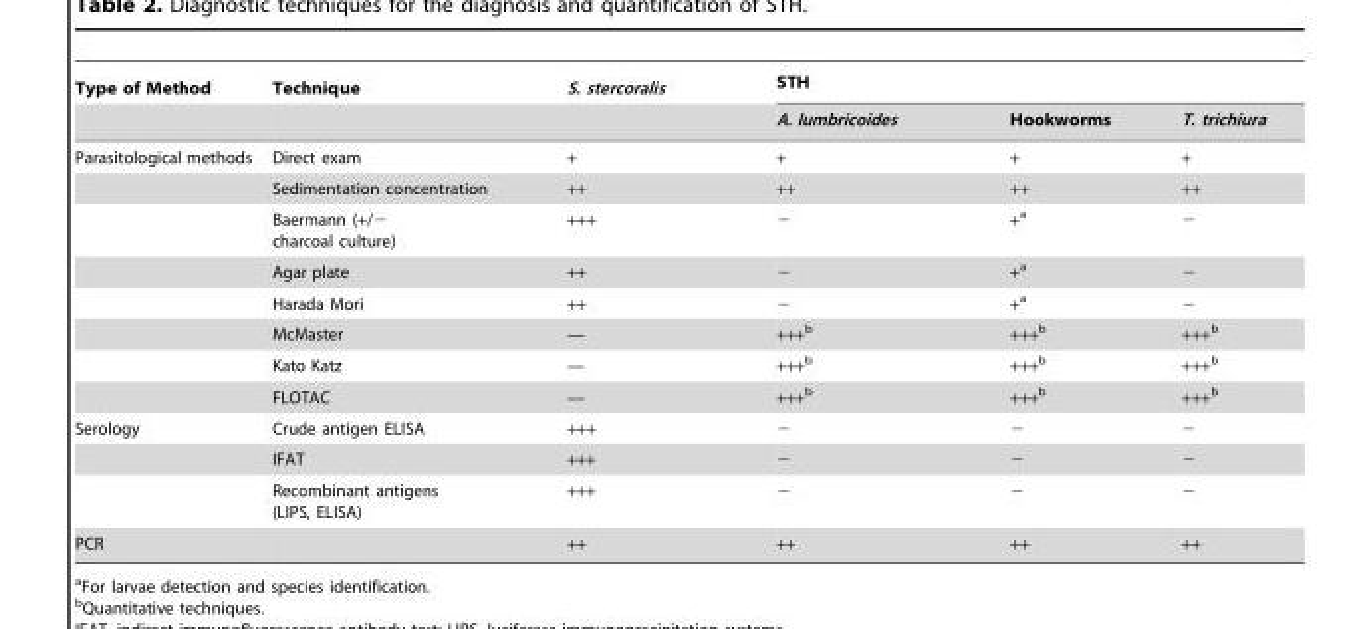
<table><thead><tr><td rowspan="2">Type of Method</td><td rowspan="2">Technique</td><td rowspan="2">S. stercoralis</td><td colspan="3">STH</td></tr><tr><td>A. lumbricoides</td><td>Hookworms</td><td>T. trichiura</td></tr></thead><tbody><tr><td rowspan="8">Parasitological methods</td><td>Direct exam</td><td>+</td><td>+</td><td>+</td><td>+</td></tr><tr><td>Sedimentation concentration</td><td>++</td><td>++</td><td>++</td><td>++</td></tr><tr><td>Baermann (+/− charcoal culture)</td><td>+++</td><td>−</td><td>+<sup>a</sup></td><td>−</td></tr><tr><td>Agar plate</td><td>++</td><td>−</td><td>+<sup>a</sup></td><td>−</td></tr><tr><td>Harada Mori</td><td>++</td><td>−</td><td>+<sup>a</sup></td><td>−</td></tr><tr><td>McMaster</td><td>—</td><td>+++<sup>b</sup></td><td>+++<sup>b</sup></td><td>+++<sup>b</sup></td></tr><tr><td>Kato Katz</td><td>—</td><td>+++<sup>b</sup></td><td>+++<sup>b</sup></td><td>+++<sup>b</sup></td></tr><tr><td>FLOTAC</td><td>—</td><td>+++<sup>b</sup></td><td>+++<sup>b</sup></td><td>+++<sup>b</sup></td></tr><tr><td rowspan="3">Serology</td><td>Crude antigen ELISA</td><td>+++</td><td>−</td><td>−</td><td>−</td></tr><tr><td>IFAT</td><td>+++</td><td>−</td><td>−</td><td>−</td></tr><tr><td>Recombinant antigens (LIPS, ELISA)</td><td>+++</td><td>−</td><td>−</td><td>−</td></tr><tr><td>PCR</td><td></td><td>++</td><td>++</td><td>++</td><td>++</td></tr></tbody></table>